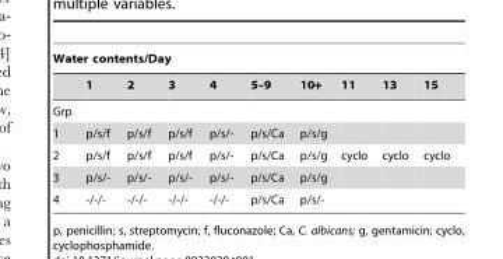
<table><thead><tr><td colspan="10">Water contents/Day</td></tr><tr><td></td><td>1</td><td>2</td><td>3</td><td>4</td><td>5–9</td><td>10+</td><td>11</td><td>13</td><td>15</td></tr></thead><tbody><tr><td colspan="10">Grp</td></tr><tr><td>1</td><td>p/s/f</td><td>p/s/f</td><td>p/s/f</td><td>p/s/-</td><td>p/s/Ca</td><td>p/s/g</td><td></td><td></td><td></td></tr><tr><td>2</td><td>p/s/f</td><td>p/s/f</td><td>p/s/f</td><td>p/s/-</td><td>p/s/Ca</td><td>p/s/g</td><td>cyclo</td><td>cyclo</td><td>cyclo</td></tr><tr><td>3</td><td>p/s/-</td><td>p/s/-</td><td>p/s/-</td><td>p/s/-</td><td>p/s/Ca</td><td>p/s/g</td><td></td><td></td><td></td></tr><tr><td>4</td><td>-/-/-</td><td>-/-/-</td><td>-/-/-</td><td>-/-/-</td><td>p/s/Ca</td><td>p/s/-</td><td></td><td></td><td></td></tr></tbody></table>